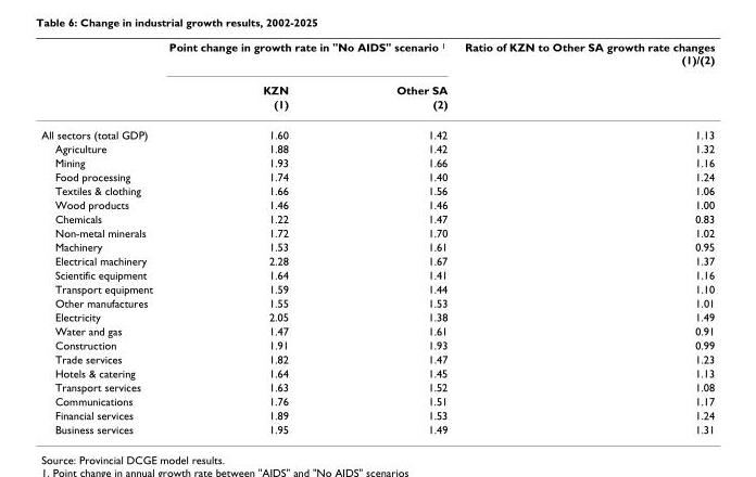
<table><thead><tr><td rowspan="3"></td><td colspan="2">Point change in growth rate in &quot;No AIDS&quot; scenario <sup>1</sup></td><td rowspan="3">Ratio of KZN to Other SA growth rate changes (1)/(2)</td></tr><tr><td rowspan="2">KZN (1)</td><td rowspan="2">Other SA (2)</td></tr><tr></tr></thead><tbody><tr><td>All sectors (total GDP)</td><td>1.60</td><td>1.42</td><td>1.13</td></tr><tr><td>Agriculture</td><td>1.88</td><td>1.42</td><td>1.32</td></tr><tr><td>Mining</td><td>1.93</td><td>1.66</td><td>1.16</td></tr><tr><td>Food processing</td><td>1.74</td><td>1.40</td><td>1.24</td></tr><tr><td>Textiles &amp; clothing</td><td>1.66</td><td>1.56</td><td>1.06</td></tr><tr><td>Wood products</td><td>1.46</td><td>1.46</td><td>1.00</td></tr><tr><td>Chemicals</td><td>1.22</td><td>1.47</td><td>0.83</td></tr><tr><td>Non-metal minerals</td><td>1.72</td><td>1.70</td><td>1.02</td></tr><tr><td>Machinery</td><td>1.53</td><td>1.61</td><td>0.95</td></tr><tr><td>Electrical machinery</td><td>2.28</td><td>1.67</td><td>1.37</td></tr><tr><td>Scientific equipment</td><td>1.64</td><td>1.41</td><td>1.16</td></tr><tr><td>Transport equipment</td><td>1.59</td><td>1.44</td><td>1.10</td></tr><tr><td>Other manufactures</td><td>1.55</td><td>1.53</td><td>1.01</td></tr><tr><td>Electricity</td><td>2.05</td><td>1.38</td><td>1.49</td></tr><tr><td>Water and gas</td><td>1.47</td><td>1.61</td><td>0.91</td></tr><tr><td>Construction</td><td>1.91</td><td>1.93</td><td>0.99</td></tr><tr><td>Trade services</td><td>1.82</td><td>1.47</td><td>1.23</td></tr><tr><td>Hotels &amp; catering</td><td>1.64</td><td>1.45</td><td>1.13</td></tr><tr><td>Transport services</td><td>1.63</td><td>1.52</td><td>1.08</td></tr><tr><td>Communications</td><td>1.76</td><td>1.51</td><td>1.17</td></tr><tr><td>Financial services</td><td>1.89</td><td>1.53</td><td>1.24</td></tr><tr><td>Business services</td><td>1.95</td><td>1.49</td><td>1.31</td></tr></tbody></table>